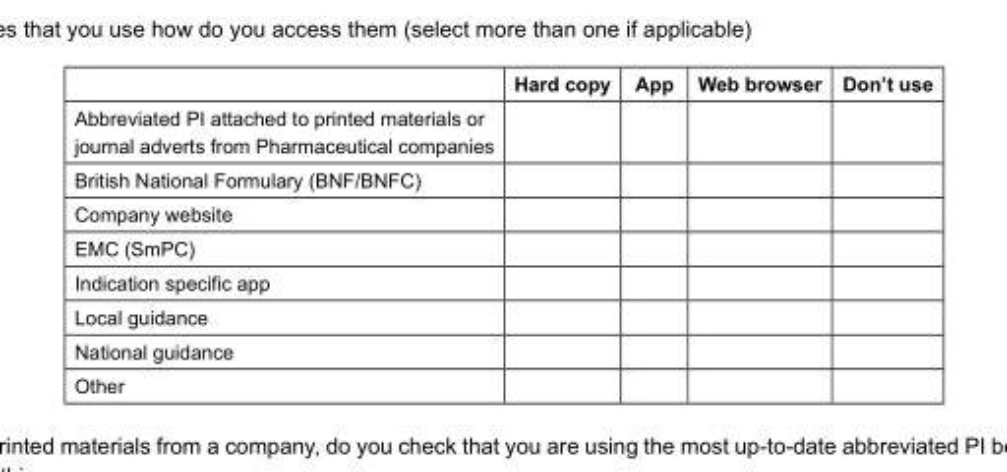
<table><thead><tr><td></td><td>Hard copy</td><td>App</td><td>Web browser</td><td>Don’t use</td></tr></thead><tbody><tr><td colspan="5">Abbreviated PI attached to printed materials or journal adverts from Pharmaceutical companies</td></tr><tr><td colspan="5">British National Formulary (BNF/BNFC)</td></tr><tr><td colspan="5">Company website</td></tr><tr><td colspan="5">EMC (SmPC)</td></tr><tr><td colspan="5">Indication specific app</td></tr><tr><td colspan="5">Local guidance</td></tr><tr><td colspan="5">National guidance</td></tr><tr><td>Other</td><td></td><td></td><td></td><td></td></tr></tbody></table>